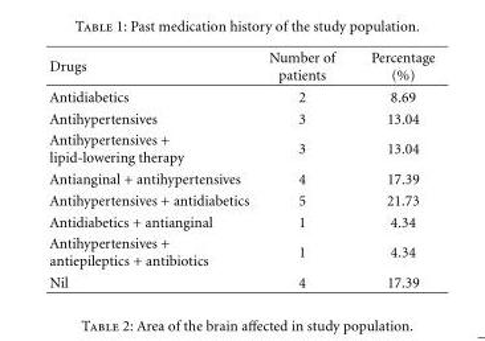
<table><thead><tr><td>Drugs</td><td>Number of patients</td><td>Percentage (%)</td></tr></thead><tbody><tr><td>Antidiabetics</td><td>2</td><td>8.69</td></tr><tr><td>Antihypertensives</td><td>3</td><td>13.04</td></tr><tr><td>Antihypertensives + lipid-lowering therapy</td><td>3</td><td>13.04</td></tr><tr><td>Antianginal + antihypertensives</td><td>4</td><td>17.39</td></tr><tr><td>Antihypertensives + antidiabetics</td><td>5</td><td>21.73</td></tr><tr><td>Antidiabetics + antianginal</td><td>1</td><td>4.34</td></tr><tr><td>Antihypertensives + antiepileptics + antibiotics</td><td>1</td><td>4.34</td></tr><tr><td>Nil</td><td>4</td><td>17.39</td></tr></tbody></table>